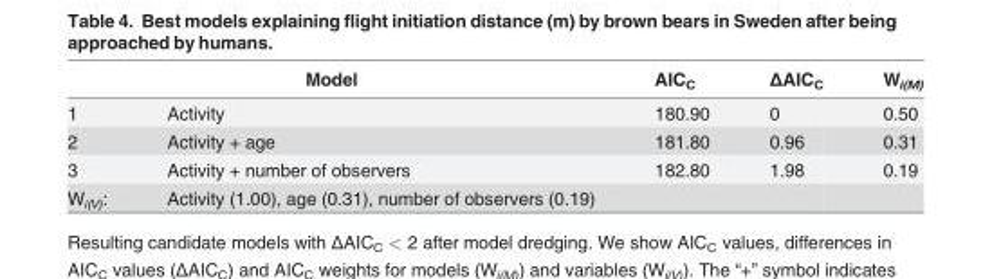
<table><thead><tr><td colspan="2">Model</td><td rowspan="2">AIC<sub>C</sub> 180.90</td><td rowspan="2">ΔAIC<sub>C</sub> 0</td><td rowspan="2">W<sub>i(M)</sub> 0.50</td></tr><tr><td>1</td><td>Activity</td></tr></thead><tbody><tr><td>2</td><td>Activity + age</td><td>181.80</td><td>0.96</td><td>0.31</td></tr><tr><td>3</td><td>Activity + number of observers</td><td>182.80</td><td>1.98</td><td>0.19</td></tr><tr><td>W<sub>i(V)</sub>:</td><td>Activity (1.00), age (0.31), number of observers (0.19)</td><td></td><td></td><td></td></tr></tbody></table>